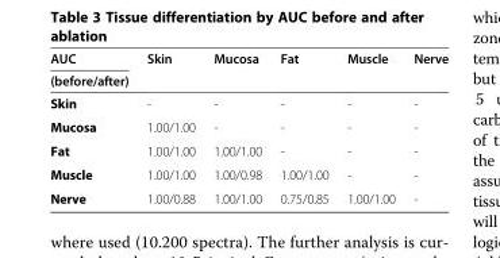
<table><thead><tr><td rowspan="2">AUC (before/after)</td><td rowspan="2">Skin</td><td rowspan="2">Mucosa</td><td rowspan="2">Fat</td><td rowspan="2">Muscle</td><td rowspan="2">Nerve</td></tr><tr></tr></thead><tbody><tr><td>Skin</td><td>-</td><td>-</td><td>-</td><td>-</td><td>-</td></tr><tr><td>Mucosa</td><td>1.00/1.00</td><td>-</td><td>-</td><td>-</td><td>-</td></tr><tr><td>Fat</td><td>1.00/1.00</td><td>1.00/1.00</td><td>-</td><td>-</td><td>-</td></tr><tr><td>Muscle</td><td>1.00/1.00</td><td>1.00/0.98</td><td>1.00/1.00</td><td>-</td><td>-</td></tr><tr><td>Nerve</td><td>1.00/0.88</td><td>1.00/1.00</td><td>0.75/0.85</td><td>1.00/1.00</td><td>-</td></tr></tbody></table>